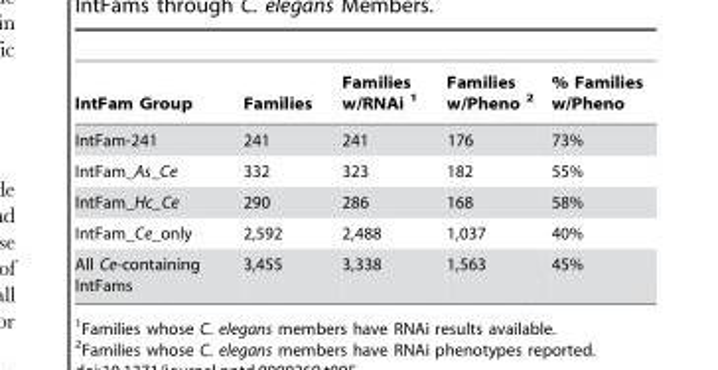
<table><thead><tr><td>IntFam Group</td><td>Families</td><td>Families w/RNAi 1</td><td>Families w/Pheno 2</td><td>% Families w/Pheno</td></tr></thead><tbody><tr><td>IntFam-241</td><td>241</td><td>241</td><td>176</td><td>73%</td></tr><tr><td>IntFam_As_Ce</td><td>332</td><td>323</td><td>182</td><td>55%</td></tr><tr><td>IntFam_Hc_Ce</td><td>290</td><td>286</td><td>168</td><td>58%</td></tr><tr><td>IntFam_Ce_only</td><td>2,592</td><td>2,488</td><td>1,037</td><td>40%</td></tr><tr><td>All Ce-containing IntFams</td><td>3,455</td><td>3,338</td><td>1,563</td><td>45%</td></tr></tbody></table>